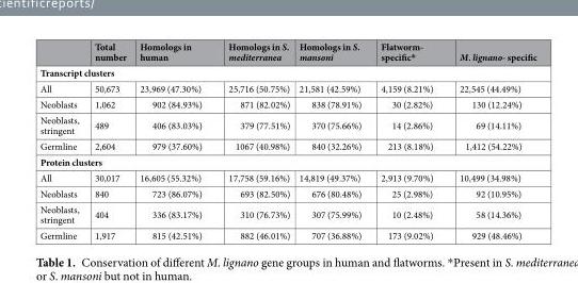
<table><thead><tr><td></td><td>Total number</td><td>Homologs in human</td><td>Homologs in S. mediterranea</td><td>Homologs in S. mansoni</td><td>Flatworm- specific*</td><td>M. lignano- specific</td></tr></thead><tbody><tr><td colspan="7">Transcript clusters</td></tr><tr><td>All</td><td>50,673</td><td>23,969 (47.30%)</td><td>25,716 (50.75%)</td><td>21,581 (42.59%)</td><td>4,159 (8.21%)</td><td>22,545 (44.49%)</td></tr><tr><td>Neoblasts</td><td>1,062</td><td>902 (84.93%)</td><td>871 (82.02%)</td><td>838 (78.91%)</td><td>30 (2.82%)</td><td>130 (12.24%)</td></tr><tr><td>Neoblasts, stringent</td><td>489</td><td>406 (83.03%)</td><td>379 (77.51%)</td><td>370 (75.66%)</td><td>14 (2.86%)</td><td>69 (14.11%)</td></tr><tr><td>Germline</td><td>2,604</td><td>979 (37.60%)</td><td>1067 (40.98%)</td><td>840 (32.26%)</td><td>213 (8.18%)</td><td>1,412 (54.22%)</td></tr><tr><td colspan="7">Protein clusters</td></tr><tr><td>All</td><td>30,017</td><td>16,605 (55.32%)</td><td>17,758 (59.16%)</td><td>14,819 (49.37%)</td><td>2,913 (9.70%)</td><td>10,499 (34.98%)</td></tr><tr><td>Neoblasts</td><td>840</td><td>723 (86.07%)</td><td>693 (82.50%)</td><td>676 (80.48%)</td><td>25 (2.98%)</td><td>92 (10.95%)</td></tr><tr><td>Neoblasts, stringent</td><td>404</td><td>336 (83.17%)</td><td>310 (76.73%)</td><td>307 (75.99%)</td><td>10 (2.48%)</td><td>58 (14.36%)</td></tr><tr><td>Germline</td><td>1,917</td><td>815 (42.51%)</td><td>882 (46.01%)</td><td>707 (36.88%)</td><td>173 (9.02%)</td><td>929 (48.46%)</td></tr></tbody></table>